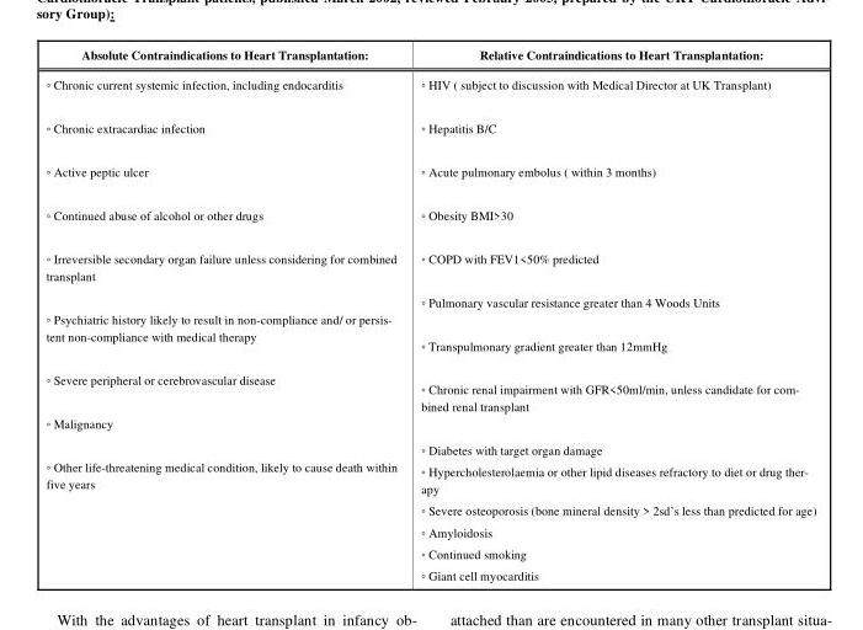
<table><thead><tr><td>Absolute Contraindications to Heart Transplantation:</td><td>Relative Contraindications to Heart Transplantation:</td></tr></thead><tbody><tr><td>� Chronic current systemic infection, including endocarditis � Chronic extracardiac infection � Active peptic ulcer � Continued abuse of alcohol or other drugs � Irreversible secondary organ failure unless considering for combined transplant � Psychiatric history likely to result in non-compliance and/ or persis- tent non-compliance with medical therapy � Severe peripheral or cerebrovascular disease � Malignancy � Other life-threatening medical condition, likely to cause death within five years</td><td>� HIV ( subject to discussion with Medical Director at UK Transplant) � Hepatitis B/C � Acute pulmonary embolus ( within 3 months) � Obesity BMI&gt;30 � COPD with FEV1&lt;50% predicted � Pulmonary vascular resistance greater than 4 Woods Units � Transpulmonary gradient greater than 12mmHg � Chronic renal impairment with GFR&lt;50ml/min, unless candidate for com- bined renal transplant � Diabetes with target organ damage � Hypercholesterolaemia or other lipid diseases refractory to diet or drug ther- apy � Severe osteoporosis (bone mineral density &gt; 2sd’s less than predicted for age) � Amyloidosis � Continued smoking � Giant cell myocarditis</td></tr></tbody></table>